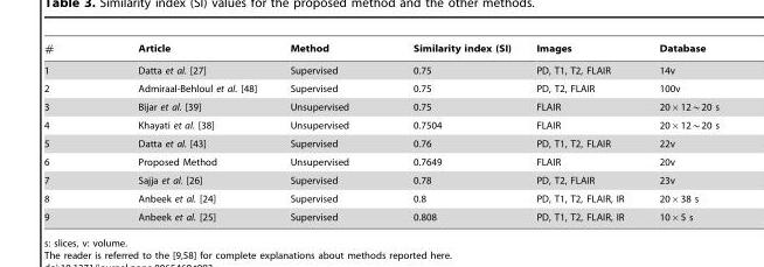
<table><thead><tr><td>#</td><td>Article</td><td>Method</td><td>Similarity index (SI)</td><td>Images</td><td>Database</td></tr></thead><tbody><tr><td>1</td><td>Datta et al. [27]</td><td>Supervised</td><td>0.75</td><td>PD, T1, T2, FLAIR</td><td>14v</td></tr><tr><td>2</td><td>Admiraal-Behloul et al. [48]</td><td>Supervised</td><td>0.75</td><td>PD, T2, FLAIR</td><td>100v</td></tr><tr><td>3</td><td>Bijar et al. [39]</td><td>Unsupervised</td><td>0.75</td><td>FLAIR</td><td>20|12*20 s</td></tr><tr><td>4</td><td>Khayati et al. [38]</td><td>Unsupervised</td><td>0.7504</td><td>FLAIR</td><td>20|12*20 s</td></tr><tr><td>5</td><td>Datta et al. [43]</td><td>Supervised</td><td>0.76</td><td>PD, T1, T2, FLAIR</td><td>22v</td></tr><tr><td>6</td><td>Proposed Method</td><td>Unsupervised</td><td>0.7649</td><td>FLAIR</td><td>20v</td></tr><tr><td>7</td><td>Sajja et al. [26]</td><td>Supervised</td><td>0.78</td><td>PD, T2, FLAIR</td><td>23v</td></tr><tr><td>8</td><td>Anbeek et al. [24]</td><td>Supervised</td><td>0.8</td><td>PD, T1, T2, FLAIR, IR</td><td>20|38 s</td></tr><tr><td>9</td><td>Anbeek et al. [25]</td><td>Supervised</td><td>0.808</td><td>PD, T1, T2, FLAIR, IR</td><td>10|5 s</td></tr></tbody></table>